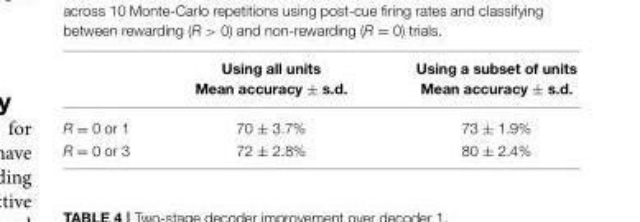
<table><thead><tr><td></td><td>Using all units Mean accuracy ± s.d.</td><td>Using a subset of units Mean accuracy ± s.d.</td></tr></thead><tbody><tr><td>R = 0 or 1</td><td>70 ± 3.7%</td><td>73 ± 1.9%</td></tr><tr><td>R = 0 or 3</td><td>72 ± 2.8%</td><td>80 ± 2.4%</td></tr></tbody></table>